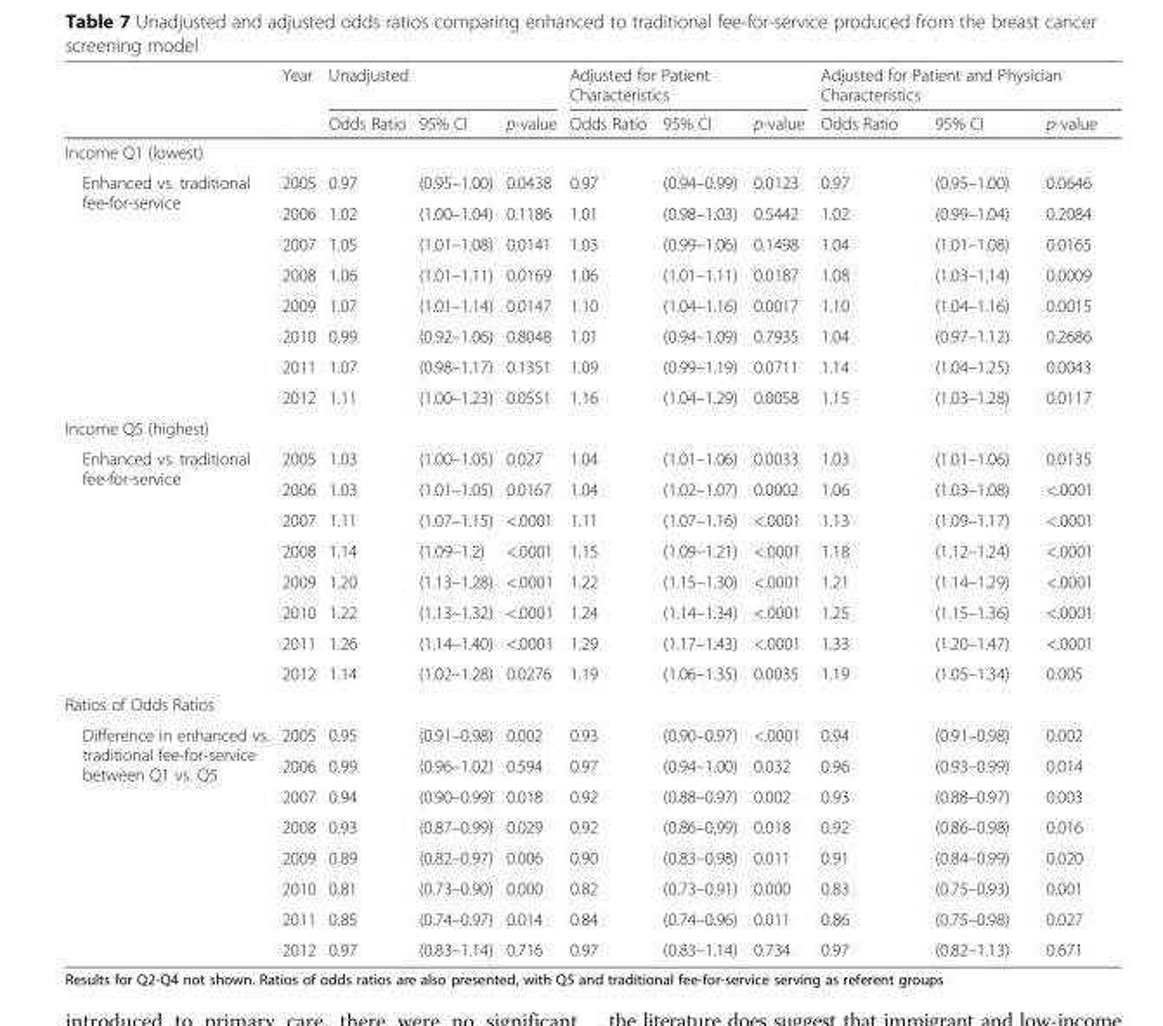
<table><thead><tr><td rowspan="2"></td><td rowspan="2">Year</td><td colspan="3">Unadjusted</td><td colspan="3">Adjusted for Patient Characteristics</td><td colspan="3">Adjusted for Patient and Physician Characteristics</td></tr><tr><td>Odds Ratio</td><td>95% CI</td><td>p-value</td><td>Odds Ratio</td><td>95% CI</td><td>p-value</td><td>Odds Ratio</td><td>95% CI</td><td>p-value</td></tr></thead><tbody><tr><td colspan="11">Income Q1 (lowest)</td></tr><tr><td rowspan="8">Enhanced vs. traditional fee-for-service</td><td>2005</td><td>0.97</td><td>(0.95–1.00)</td><td>0.0438</td><td>0.97</td><td>(0.94–0.99)</td><td>0.0123</td><td>0.97</td><td>(0.95–1.00)</td><td>0.0646</td></tr><tr><td>2006</td><td>1.02</td><td>(1.00–1.04)</td><td>0.1186</td><td>1.01</td><td>(0.98–1.03)</td><td>0.5442</td><td>1.02</td><td>(0.99–1.04)</td><td>0.2084</td></tr><tr><td>2007</td><td>1.05</td><td>(1.01–1.08)</td><td>0.0141</td><td>1.03</td><td>(0.99–1.06)</td><td>0.1498</td><td>1.04</td><td>(1.01–1.08)</td><td>0.0165</td></tr><tr><td>2008</td><td>1.06</td><td>(1.01–1.11)</td><td>0.0169</td><td>1.06</td><td>(1.01–1.11)</td><td>0.0187</td><td>1.08</td><td>(1.03–1.14)</td><td>0.0009</td></tr><tr><td>2009</td><td>1.07</td><td>(1.01–1.14)</td><td>0.0147</td><td>1.10</td><td>(1.04–1.16)</td><td>0.0017</td><td>1.10</td><td>(1.04–1.16)</td><td>0.0015</td></tr><tr><td>2010</td><td>0.99</td><td>(0.92–1.06)</td><td>0.8048</td><td>1.01</td><td>(0.94–1.09)</td><td>0.7935</td><td>1.04</td><td>(0.97–1.12)</td><td>0.2686</td></tr><tr><td>2011</td><td>1.07</td><td>(0.98–1.17)</td><td>0.1351</td><td>1.09</td><td>(0.99–1.19)</td><td>0.0711</td><td>1.14</td><td>(1.04–1.25)</td><td>0.0043</td></tr><tr><td>2012</td><td>1.11</td><td>(1.00–1.23)</td><td>0.0551</td><td>1.16</td><td>(1.04–1.29)</td><td>0.0058</td><td>1.15</td><td>(1.03–1.28)</td><td>0.0117</td></tr><tr><td colspan="11">Income Q5 (highest)</td></tr><tr><td rowspan="8">Enhanced vs. traditional fee-for-service</td><td>2005</td><td>1.03</td><td>(1.00–1.05)</td><td>0.027</td><td>1.04</td><td>(1.01–1.06)</td><td>0.0033</td><td>1.03</td><td>(1.01–1.06)</td><td>0.0135</td></tr><tr><td>2006</td><td>1.03</td><td>(1.01–1.05)</td><td>0.0167</td><td>1.04</td><td>(1.02–1.07)</td><td>0.0002</td><td>1.06</td><td>(1.03–1.08)</td><td>&lt;.0001</td></tr><tr><td>2007</td><td>1.11</td><td>(1.07–1.15)</td><td>&lt;.0001</td><td>1.11</td><td>(1.07–1.16)</td><td>&lt;.0001</td><td>1.13</td><td>(1.09–1.17)</td><td>&lt;.0001</td></tr><tr><td>2008</td><td>1.14</td><td>(1.09–1.2)</td><td>&lt;.0001</td><td>1.15</td><td>(1.09–1.21)</td><td>&lt;.0001</td><td>1.18</td><td>(1.12–1.24)</td><td>&lt;.0001</td></tr><tr><td>2009</td><td>1.20</td><td>(1.13–1.28)</td><td>&lt;.0001</td><td>1.22</td><td>(1.15–1.30)</td><td>&lt;.0001</td><td>1.21</td><td>(1.14–1.29)</td><td>&lt;.0001</td></tr><tr><td>2010</td><td>1.22</td><td>(1.13–1.32)</td><td>&lt;.0001</td><td>1.24</td><td>(1.14–1.34)</td><td>&lt;.0001</td><td>1.25</td><td>(1.15–1.36)</td><td>&lt;.0001</td></tr><tr><td>2011</td><td>1.26</td><td>(1.14–1.40)</td><td>&lt;.0001</td><td>1.29</td><td>(1.17–1.43)</td><td>&lt;.0001</td><td>1.33</td><td>(1.20–1.47)</td><td>&lt;.0001</td></tr><tr><td>2012</td><td>1.14</td><td>(1.02–1.28)</td><td>0.0276</td><td>1.19</td><td>(1.06–1.35)</td><td>0.0035</td><td>1.19</td><td>(1.05–1.34)</td><td>0.005</td></tr><tr><td colspan="11">Ratios of Odds Ratios</td></tr><tr><td rowspan="8">Difference in enhanced vs. traditional fee-for-service between Q1 vs. Q5</td><td>2005</td><td>0.95</td><td>(0.91–0.98)</td><td>0.002</td><td>0.93</td><td>(0.90–0.97)</td><td>&lt;.0001</td><td>0.94</td><td>(0.91–0.98)</td><td>0.002</td></tr><tr><td>2006</td><td>0.99</td><td>(0.96–1.02)</td><td>0.594</td><td>0.97</td><td>(0.94–1.00)</td><td>0.032</td><td>0.96</td><td>(0.93–0.99)</td><td>0.014</td></tr><tr><td>2007</td><td>0.94</td><td>(0.90–0.99)</td><td>0.018</td><td>0.92</td><td>(0.88–0.97)</td><td>0.002</td><td>0.93</td><td>(0.88–0.97)</td><td>0.003</td></tr><tr><td>2008</td><td>0.93</td><td>(0.87–0.99)</td><td>0.029</td><td>0.92</td><td>(0.86–0.99)</td><td>0.018</td><td>0.92</td><td>(0.86–0.98)</td><td>0.016</td></tr><tr><td>2009</td><td>0.89</td><td>(0.82–0.97)</td><td>0.006</td><td>0.90</td><td>(0.83–0.98)</td><td>0.011</td><td>0.91</td><td>(0.84–0.99)</td><td>0.020</td></tr><tr><td>2010</td><td>0.81</td><td>(0.73–0.90)</td><td>0.000</td><td>0.82</td><td>(0.73–0.91)</td><td>0.000</td><td>0.83</td><td>(0.75–0.93)</td><td>0.001</td></tr><tr><td>2011</td><td>0.85</td><td>(0.74–0.97)</td><td>0.014</td><td>0.84</td><td>(0.74–0.96)</td><td>0.011</td><td>0.86</td><td>(0.75–0.98)</td><td>0.027</td></tr><tr><td>2012</td><td>0.97</td><td>(0.83–1.14)</td><td>0.716</td><td>0.97</td><td>(0.83–1.14)</td><td>0.734</td><td>0.97</td><td>(0.82–1.13)</td><td>0.671</td></tr></tbody></table>